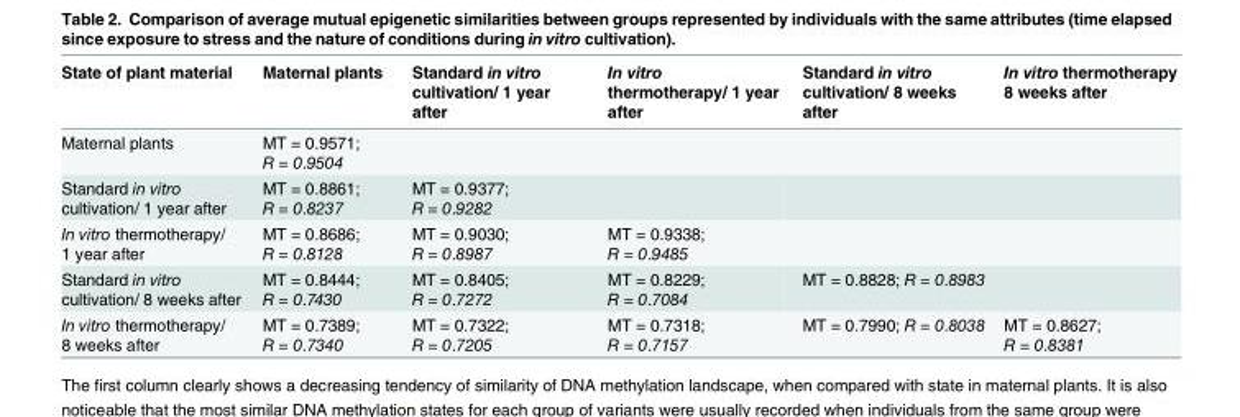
<table><thead><tr><td>State of plant material</td><td>Maternal plants</td><td>Standard in vitro cultivation/ 1 year after</td><td>In vitro thermotherapy/ 1 year after</td><td>Standard in vitro cultivation/ 8 weeks after</td><td>In vitro thermotherapy 8 weeks after</td></tr></thead><tbody><tr><td>Maternal plants</td><td>MT = 0.9571; R = 0.9504</td><td></td><td></td><td></td><td></td></tr><tr><td>Standard in vitro cultivation/ 1 year after</td><td>MT = 0.8861; R = 0.8237</td><td>MT = 0.9377; R = 0.9282</td><td></td><td></td><td></td></tr><tr><td>In vitro thermotherapy/ 1 year after</td><td>MT = 0.8686; R = 0.8128</td><td>MT = 0.9030; R = 0.8987</td><td>MT = 0.9338; R = 0.9485</td><td></td><td></td></tr><tr><td>Standard in vitro cultivation/ 8 weeks after</td><td>MT = 0.8444; R = 0.7430</td><td>MT = 0.8405; R = 0.7272</td><td>MT = 0.8229; R = 0.7084</td><td>MT = 0.8828; R = 0.8983</td><td></td></tr><tr><td>In vitro thermotherapy/ 8 weeks after</td><td>MT = 0.7389; R = 0.7340</td><td>MT = 0.7322; R = 0.7205</td><td>MT = 0.7318; R = 0.7157</td><td>MT = 0.7990; R = 0.8038</td><td>MT = 0.8627; R = 0.8381</td></tr></tbody></table>